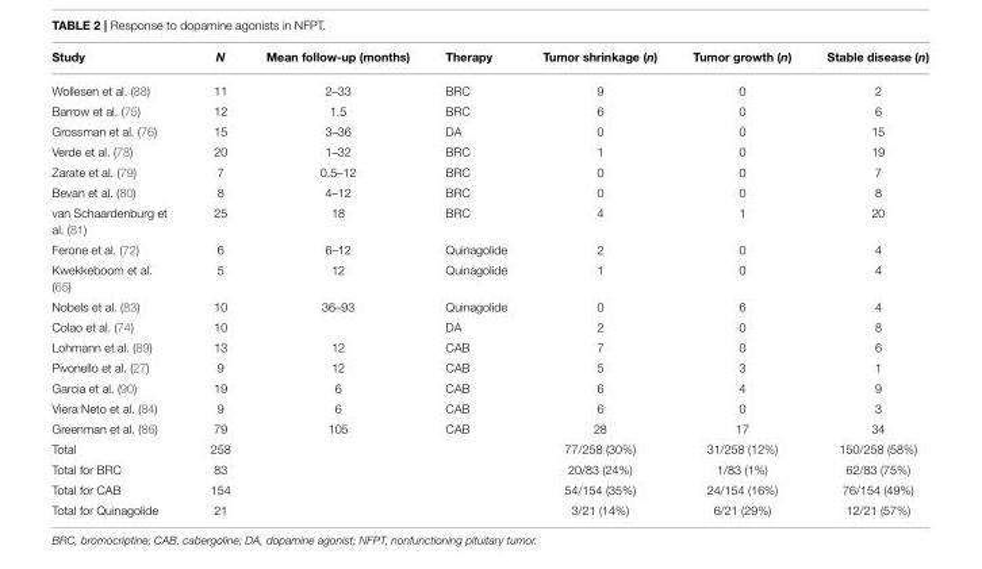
<table><thead><tr><td>Study</td><td>N</td><td>Mean follow-up (months)</td><td>Therapy</td><td>Tumor shrinkage (n)</td><td>Tumor growth (n)</td><td>Stable disease (n)</td></tr></thead><tbody><tr><td>Wollesen et al. (88)</td><td>11</td><td>2–33</td><td>BRC</td><td>9</td><td>0</td><td>2</td></tr><tr><td>Barrow et al. (75)</td><td>12</td><td>1.5</td><td>BRC</td><td>6</td><td>0</td><td>6</td></tr><tr><td>Grossman et al. (76)</td><td>15</td><td>3–36</td><td>DA</td><td>0</td><td>0</td><td>15</td></tr><tr><td>Verde et al. (78)</td><td>20</td><td>1–32</td><td>BRC</td><td>1</td><td>0</td><td>19</td></tr><tr><td>Zarate et al. (79)</td><td>7</td><td>0.5–12</td><td>BRC</td><td>0</td><td>0</td><td>7</td></tr><tr><td>Bevan et al. (80)</td><td>8</td><td>4–12</td><td>BRC</td><td>0</td><td>0</td><td>8</td></tr><tr><td>van Schaardenburg et al. (81)</td><td>25</td><td>18</td><td>BRC</td><td>4</td><td>1</td><td>20</td></tr><tr><td>Ferone et al. (72)</td><td>6</td><td>6–12</td><td>Quinagolide</td><td>2</td><td>0</td><td>4</td></tr><tr><td>Kwekkeboom et al. (65)</td><td>5</td><td>12</td><td>Quinagolide</td><td>1</td><td>0</td><td>4</td></tr><tr><td>Nobels et al. (83)</td><td>10</td><td>36–93</td><td>Quinagolide</td><td>0</td><td>6</td><td>4</td></tr><tr><td>Colao et al. (74)</td><td>10</td><td></td><td>DA</td><td>2</td><td>0</td><td>8</td></tr><tr><td>Lohmann et al. (89)</td><td>13</td><td>12</td><td>CAB</td><td>7</td><td>0</td><td>6</td></tr><tr><td>Pivonello et al. (27)</td><td>9</td><td>12</td><td>CAB</td><td>5</td><td>3</td><td>1</td></tr><tr><td>Garcia et al. (90)</td><td>19</td><td>6</td><td>CAB</td><td>6</td><td>4</td><td>9</td></tr><tr><td>Viera Neto et al. (84)</td><td>9</td><td>6</td><td>CAB</td><td>6</td><td>0</td><td>3</td></tr><tr><td>Greenman et al. (86)</td><td>79</td><td>105</td><td>CAB</td><td>28</td><td>17</td><td>34</td></tr><tr><td>Total</td><td>258</td><td></td><td></td><td>77/258 (30%)</td><td>31/258 (12%)</td><td>150/258 (58%)</td></tr><tr><td>Total for BRC</td><td>83</td><td></td><td></td><td>20/83 (24%)</td><td>1/83 (1%)</td><td>62/83 (75%)</td></tr><tr><td>Total for CAB</td><td>154</td><td></td><td></td><td>54/154 (35%)</td><td>24/154 (16%)</td><td>76/154 (49%)</td></tr><tr><td>Total for Quinagolide</td><td>21</td><td></td><td></td><td>3/21 (14%)</td><td>6/21 (29%)</td><td>12/21 (57%)</td></tr></tbody></table>